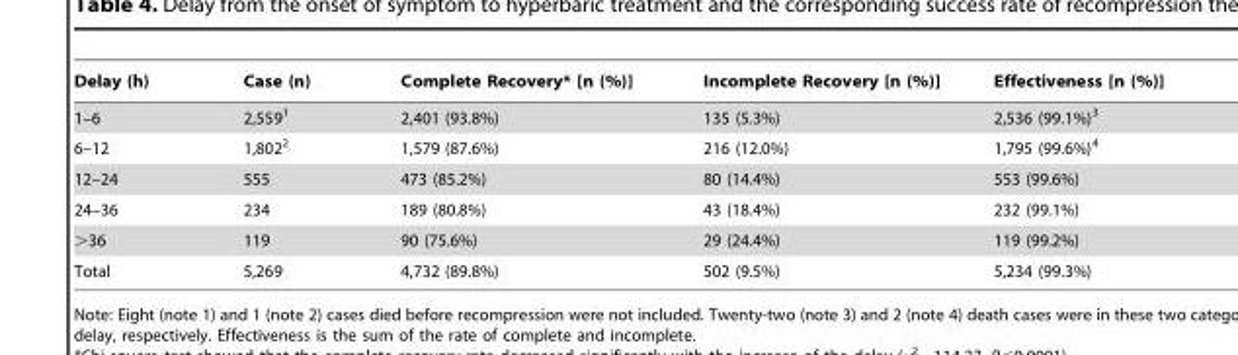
<table><thead><tr><td>Delay (h)</td><td>Case (n)</td><td>Complete Recovery* [n (%)]</td><td>Incomplete Recovery [n (%)]</td><td>Effectiveness [n (%)]</td></tr></thead><tbody><tr><td>1–6</td><td>2,559<sup>1</sup></td><td>2,401 (93.8%)</td><td>135 (5.3%)</td><td>2,536 (99.1%)<sup>3</sup></td></tr><tr><td>6–12</td><td>1,802<sup>2</sup></td><td>1,579 (87.6%)</td><td>216 (12.0%)</td><td>1,795 (99.6%)<sup>4</sup></td></tr><tr><td>12–24</td><td>555</td><td>473 (85.2%)</td><td>80 (14.4%)</td><td>553 (99.6%)</td></tr><tr><td>24–36</td><td>234</td><td>189 (80.8%)</td><td>43 (18.4%)</td><td>232 (99.1%)</td></tr><tr><td>&gt;36</td><td>119</td><td>90 (75.6%)</td><td>29 (24.4%)</td><td>119 (99.2%)</td></tr><tr><td>Total</td><td>5,269</td><td>4,732 (89.8%)</td><td>502 (9.5%)</td><td>5,234 (99.3%)</td></tr></tbody></table>